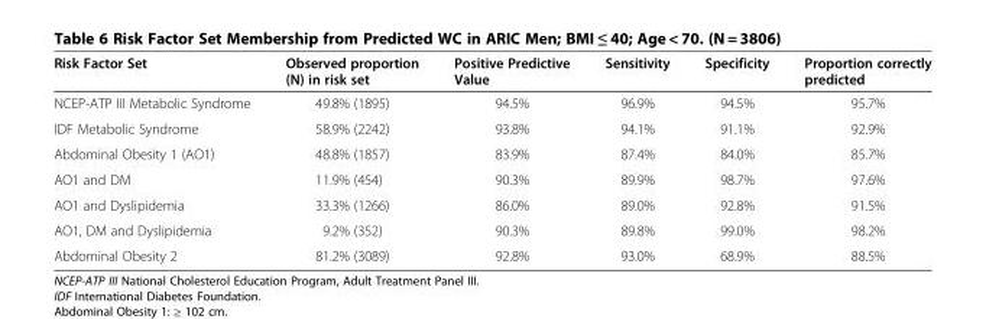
<table><thead><tr><td>Risk Factor Set</td><td>Observed proportion (N) in risk set</td><td>Positive Predictive Value</td><td>Sensitivity</td><td>Specificity</td><td>Proportion correctly predicted</td></tr></thead><tbody><tr><td>NCEP-ATP III Metabolic Syndrome</td><td>49.8% (1895)</td><td>94.5%</td><td>96.9%</td><td>94.5%</td><td>95.7%</td></tr><tr><td>IDF Metabolic Syndrome</td><td>58.9% (2242)</td><td>93.8%</td><td>94.1%</td><td>91.1%</td><td>92.9%</td></tr><tr><td>Abdominal Obesity 1 (AO1)</td><td>48.8% (1857)</td><td>83.9%</td><td>87.4%</td><td>84.0%</td><td>85.7%</td></tr><tr><td>AO1 and DM</td><td>11.9% (454)</td><td>90.3%</td><td>89.9%</td><td>98.7%</td><td>97.6%</td></tr><tr><td>AO1 and Dyslipidemia</td><td>33.3% (1266)</td><td>86.0%</td><td>89.0%</td><td>92.8%</td><td>91.5%</td></tr><tr><td>AO1, DM and Dyslipidemia</td><td>9.2% (352)</td><td>90.3%</td><td>89.8%</td><td>99.0%</td><td>98.2%</td></tr><tr><td>Abdominal Obesity 2</td><td>81.2% (3089)</td><td>92.8%</td><td>93.0%</td><td>68.9%</td><td>88.5%</td></tr></tbody></table>